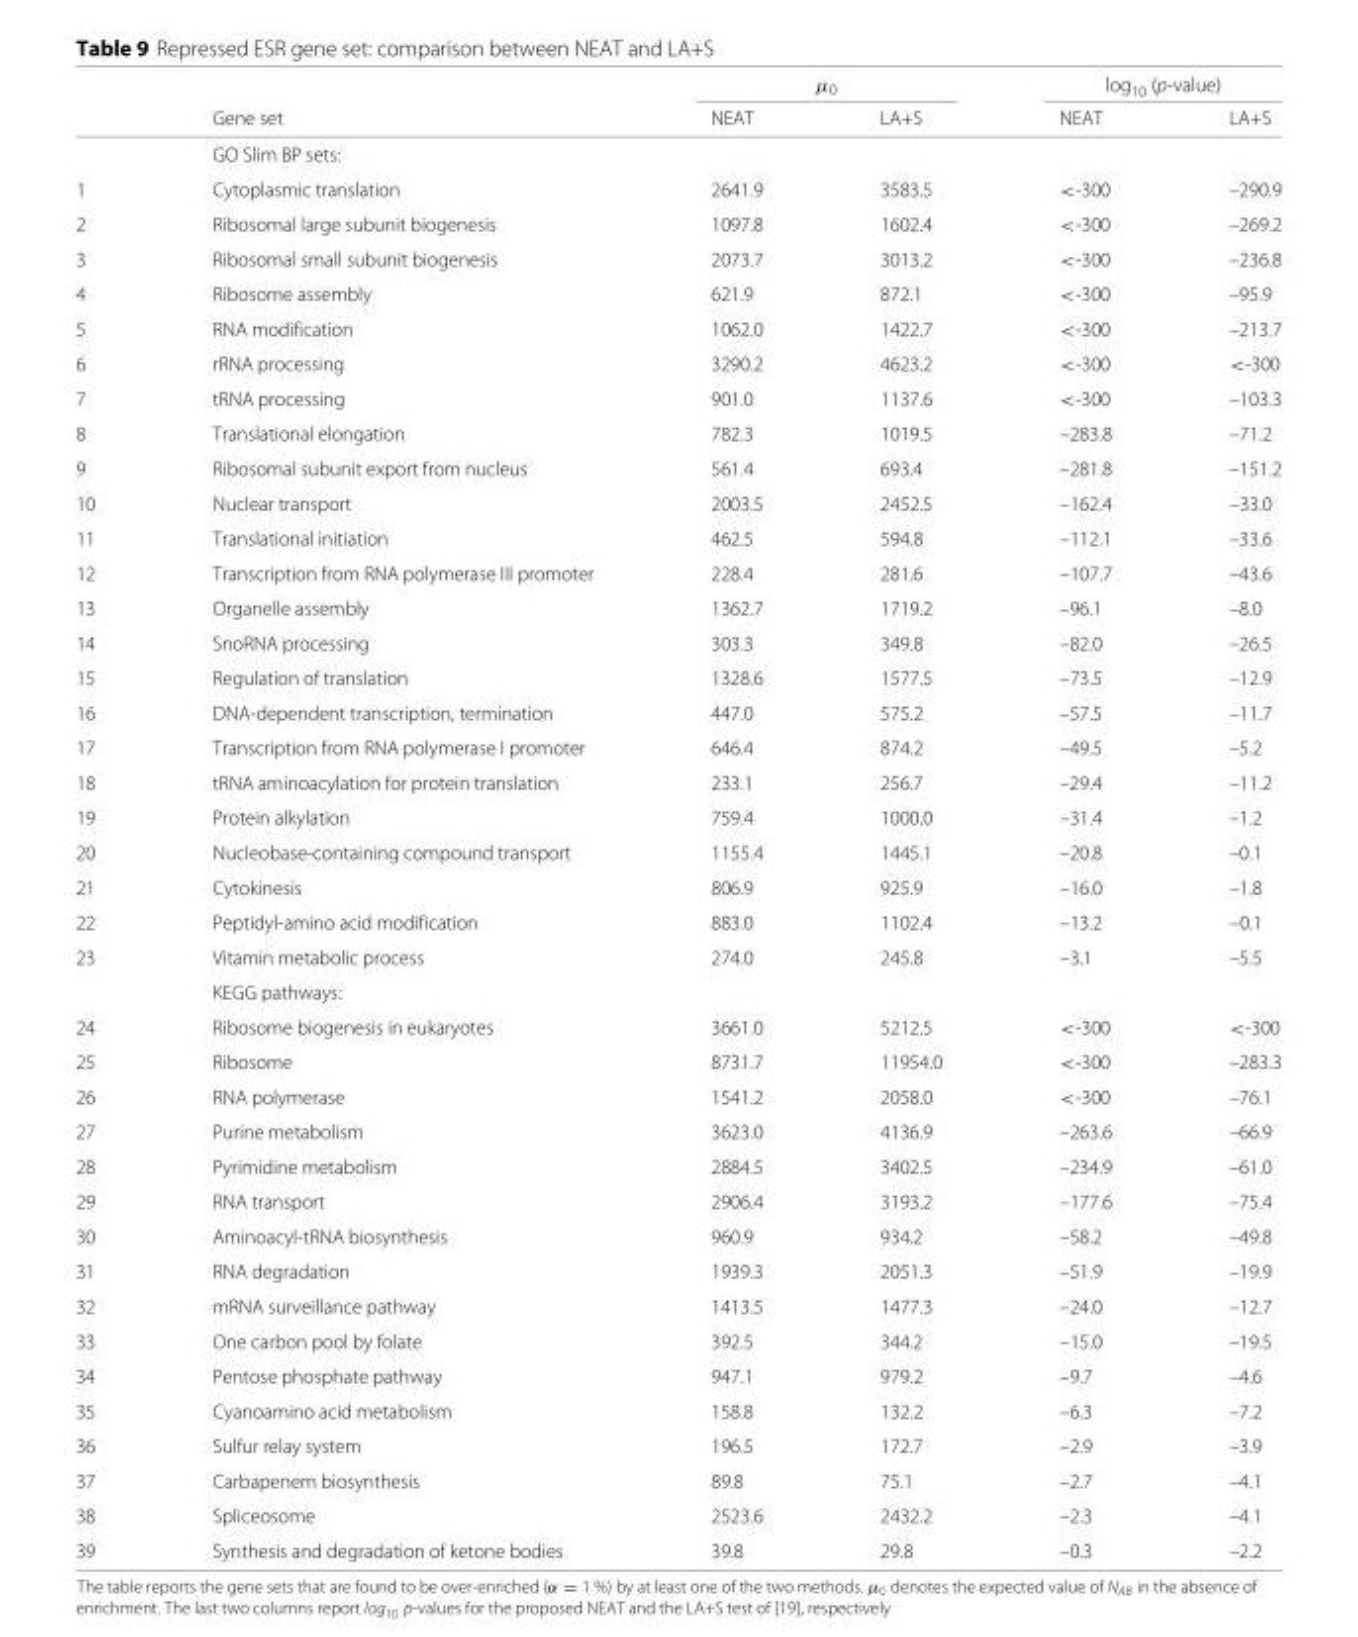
<table><thead><tr><td rowspan="2"></td><td rowspan="2">Gene set</td><td colspan="2">μ<sub>0</sub></td><td colspan="2">log10 (p-value)</td></tr><tr><td>NEAT</td><td>LA+S</td><td>NEAT</td><td>LA+S</td></tr></thead><tbody><tr><td></td><td>GO Slim BP sets:</td><td></td><td></td><td></td><td></td></tr><tr><td>1</td><td>Cytoplasmic translation</td><td>2641.9</td><td>3583.5</td><td>&lt;-300</td><td>–290.9</td></tr><tr><td>2</td><td>Ribosomal large subunit biogenesis</td><td>1097.8</td><td>1602.4</td><td>&lt;-300</td><td>–269.2</td></tr><tr><td>3</td><td>Ribosomal small subunit biogenesis</td><td>2073.7</td><td>3013.2</td><td>&lt;-300</td><td>–236.8</td></tr><tr><td>4</td><td>Ribosome assembly</td><td>621.9</td><td>872.1</td><td>&lt;-300</td><td>–95.9</td></tr><tr><td>5</td><td>RNA modification</td><td>1062.0</td><td>1422.7</td><td>&lt;-300</td><td>–213.7</td></tr><tr><td>6</td><td>rRNA processing</td><td>3290.2</td><td>4623.2</td><td>&lt;-300</td><td>&lt;-300</td></tr><tr><td>7</td><td>tRNA processing</td><td>901.0</td><td>1137.6</td><td>&lt;-300</td><td>–103.3</td></tr><tr><td>8</td><td>Translational elongation</td><td>782.3</td><td>1019.5</td><td>–283.8</td><td>–71.2</td></tr><tr><td>9</td><td>Ribosomal subunit export from nucleus</td><td>561.4</td><td>693.4</td><td>–281.8</td><td>–151.2</td></tr><tr><td>10</td><td>Nuclear transport</td><td>2003.5</td><td>2452.5</td><td>–162.4</td><td>–33.0</td></tr><tr><td>11</td><td>Translational initiation</td><td>462.5</td><td>594.8</td><td>–112.1</td><td>–33.6</td></tr><tr><td>12</td><td>Transcription from RNA polymerase III promoter</td><td>228.4</td><td>281.6</td><td>–107.7</td><td>–43.6</td></tr><tr><td>13</td><td>Organelle assembly</td><td>1362.7</td><td>1719.2</td><td>–96.1</td><td>–8.0</td></tr><tr><td>14</td><td>SnoRNA processing</td><td>303.3</td><td>349.8</td><td>–82.0</td><td>–26.5</td></tr><tr><td>15</td><td>Regulation of translation</td><td>1328.6</td><td>1577.5</td><td>–73.5</td><td>–12.9</td></tr><tr><td>16</td><td>DNA-dependent transcription, termination</td><td>447.0</td><td>575.2</td><td>–57.5</td><td>–11.7</td></tr><tr><td>17</td><td>Transcription from RNA polymerase I promoter</td><td>646.4</td><td>874.2</td><td>–49.5</td><td>–5.2</td></tr><tr><td>18</td><td>tRNA aminoacylation for protein translation</td><td>233.1</td><td>256.7</td><td>–29.4</td><td>–11.2</td></tr><tr><td>19</td><td>Protein alkylation</td><td>759.4</td><td>1000.0</td><td>–31.4</td><td>–1.2</td></tr><tr><td>20</td><td>Nucleobase-containing compound transport</td><td>1155.4</td><td>1445.1</td><td>–20.8</td><td>–0.1</td></tr><tr><td>21</td><td>Cytokinesis</td><td>806.9</td><td>925.9</td><td>–16.0</td><td>–1.8</td></tr><tr><td>22</td><td>Peptidyl-amino acid modification</td><td>883.0</td><td>1102.4</td><td>–13.2</td><td>–0.1</td></tr><tr><td rowspan="2">23</td><td>Vitamin metabolic process</td><td>274.0</td><td>245.8</td><td>–3.1</td><td>–5.5</td></tr><tr><td>KEGG pathways:</td><td></td><td></td><td></td><td></td></tr><tr><td>24</td><td>Ribosome biogenesis in eukaryotes</td><td>3661.0</td><td>5212.5</td><td>&lt;-300</td><td>&lt;-300</td></tr><tr><td>25</td><td>Ribosome</td><td>8731.7</td><td>11954.0</td><td>&lt;-300</td><td>–283.3</td></tr><tr><td>26</td><td>RNA polymerase</td><td>1541.2</td><td>2058.0</td><td>&lt;-300</td><td>–76.1</td></tr><tr><td>27</td><td>Purine metabolism</td><td>3623.0</td><td>4136.9</td><td>–263.6</td><td>–66.9</td></tr><tr><td>28</td><td>Pyrimidine metabolism</td><td>2884.5</td><td>3402.5</td><td>–234.9</td><td>–61.0</td></tr><tr><td>29</td><td>RNA transport</td><td>2906.4</td><td>3193.2</td><td>–177.6</td><td>–75.4</td></tr><tr><td>30</td><td>Aminoacyl-tRNA biosynthesis</td><td>960.9</td><td>934.2</td><td>–58.2</td><td>–49.8</td></tr><tr><td>31</td><td>RNA degradation</td><td>1939.3</td><td>2051.3</td><td>–51.9</td><td>–19.9</td></tr><tr><td>32</td><td>mRNA surveillance pathway</td><td>1413.5</td><td>1477.3</td><td>–24.0</td><td>–12.7</td></tr><tr><td>33</td><td>One carbon pool by folate</td><td>392.5</td><td>344.2</td><td>–15.0</td><td>–19.5</td></tr><tr><td>34</td><td>Pentose phosphate pathway</td><td>947.1</td><td>979.2</td><td>–9.7</td><td>–4.6</td></tr><tr><td>35</td><td>Cyanoamino acid metabolism</td><td>158.8</td><td>132.2</td><td>–6.3</td><td>–7.2</td></tr><tr><td>36</td><td>Sulfur relay system</td><td>196.5</td><td>172.7</td><td>–2.9</td><td>–3.9</td></tr><tr><td>37</td><td>Carbapenem biosynthesis</td><td>89.8</td><td>75.1</td><td>–2.7</td><td>–4.1</td></tr><tr><td>38</td><td>Spliceosome</td><td>2523.6</td><td>2432.2</td><td>–2.3</td><td>–4.1</td></tr><tr><td>39</td><td>Synthesis and degradation of ketone bodies</td><td>39.8</td><td>29.8</td><td>–0.3</td><td>–2.2</td></tr></tbody></table>